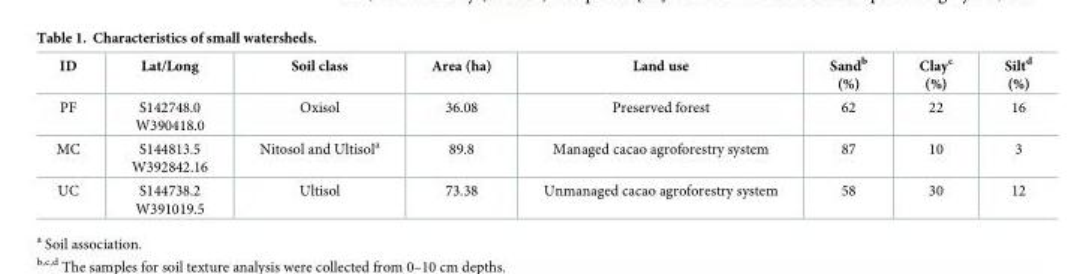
<table><thead><tr><td>ID</td><td>Lat/Long</td><td>Soil class</td><td>Area (ha)</td><td>Land use</td><td>Sand<sup>b</sup> (%)</td><td>Clay<sup>c</sup> (%)</td><td>Silt<sup>d</sup> (%)</td></tr></thead><tbody><tr><td>PF</td><td>S142748.0 W390418.0</td><td>Oxisol</td><td>36.08</td><td>Preserved forest</td><td>62</td><td>22</td><td>16</td></tr><tr><td>MC</td><td>S144813.5 W392842.16</td><td>Nitosol and Ultisol<sup>a</sup></td><td>89.8</td><td>Managed cacao agroforestry system</td><td>87</td><td>10</td><td>3</td></tr><tr><td>UC</td><td>S144738.2 W391019.5</td><td>Ultisol</td><td>73.38</td><td>Unmanaged cacao agroforestry system</td><td>58</td><td>30</td><td>12</td></tr></tbody></table>